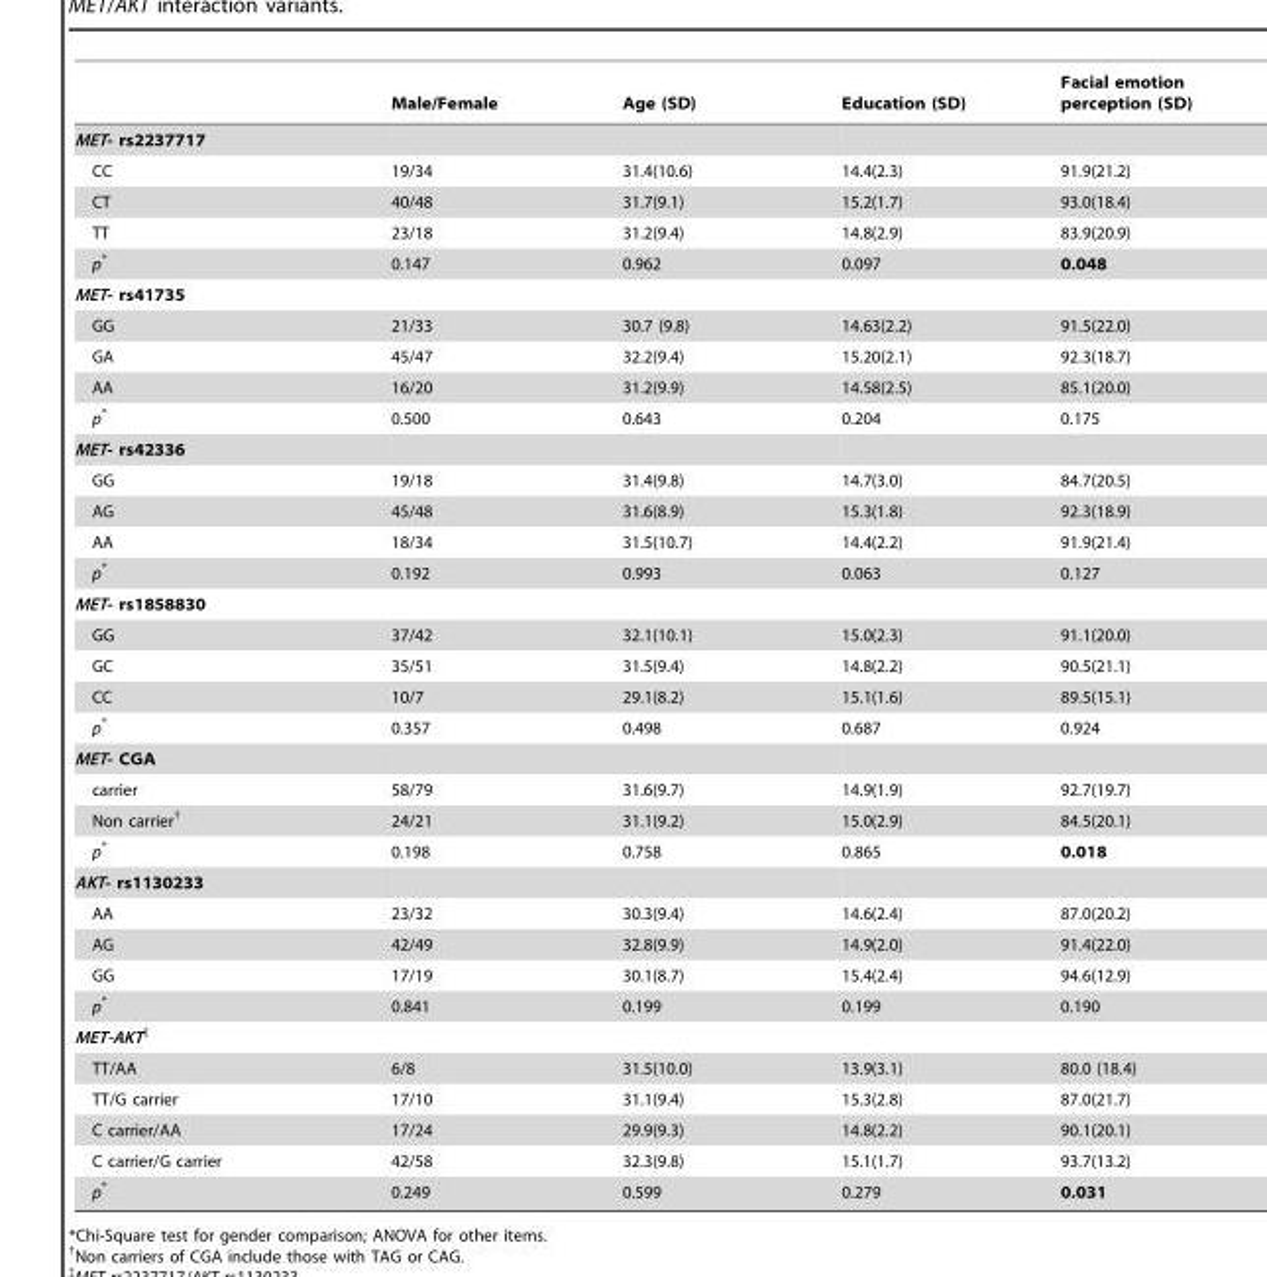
<table><thead><tr><td></td><td>Male/Female</td><td>Age (SD)</td><td>Education (SD)</td><td>Facial emotion perception (SD)</td></tr></thead><tbody><tr><td colspan="5">MET- rs2237717</td></tr><tr><td>CC</td><td>19/34</td><td>31.4(10.6)</td><td>14.4(2.3)</td><td>91.9(21.2)</td></tr><tr><td>CT</td><td>40/48</td><td>31.7(9.1)</td><td>15.2(1.7)</td><td>93.0(18.4)</td></tr><tr><td>TT</td><td>23/18</td><td>31.2(9.4)</td><td>14.8(2.9)</td><td>83.9(20.9)</td></tr><tr><td>p*</td><td>0.147</td><td>0.962</td><td>0.097</td><td>0.048</td></tr><tr><td colspan="5">MET- rs41735</td></tr><tr><td>GG</td><td>21/33</td><td>30.7 (9.8)</td><td>14.63(2.2)</td><td>91.5(22.0)</td></tr><tr><td>GA</td><td>45/47</td><td>32.2(9.4)</td><td>15.20(2.1)</td><td>92.3(18.7)</td></tr><tr><td>AA</td><td>16/20</td><td>31.2(9.9)</td><td>14.58(2.5)</td><td>85.1(20.0)</td></tr><tr><td>p*</td><td>0.500</td><td>0.643</td><td>0.204</td><td>0.175</td></tr><tr><td colspan="5">MET- rs42336</td></tr><tr><td>GG</td><td>19/18</td><td>31.4(9.8)</td><td>14.7(3.0)</td><td>84.7(20.5)</td></tr><tr><td>AG</td><td>45/48</td><td>31.6(8.9)</td><td>15.3(1.8)</td><td>92.3(18.9)</td></tr><tr><td>AA</td><td>18/34</td><td>31.5(10.7)</td><td>14.4(2.2)</td><td>91.9(21.4)</td></tr><tr><td>p*</td><td>0.192</td><td>0.993</td><td>0.063</td><td>0.127</td></tr><tr><td colspan="5">MET- rs1858830</td></tr><tr><td>GG</td><td>37/42</td><td>32.1(10.1)</td><td>15.0(2.3)</td><td>91.1(20.0)</td></tr><tr><td>GC</td><td>35/51</td><td>31.5(9.4)</td><td>14.8(2.2)</td><td>90.5(21.1)</td></tr><tr><td>CC</td><td>10/7</td><td>29.1(8.2)</td><td>15.1(1.6)</td><td>89.5(15.1)</td></tr><tr><td>p*</td><td>0.357</td><td>0.498</td><td>0.687</td><td>0.924</td></tr><tr><td colspan="5">MET- CGA</td></tr><tr><td>carrier</td><td>58/79</td><td>31.6(9.7)</td><td>14.9(1.9)</td><td>92.7(19.7)</td></tr><tr><td>Non carrier†</td><td>24/21</td><td>31.1(9.2)</td><td>15.0(2.9)</td><td>84.5(20.1)</td></tr><tr><td>p*</td><td>0.198</td><td>0.758</td><td>0.865</td><td>0.018</td></tr><tr><td colspan="5">AKT- rs1130233</td></tr><tr><td>AA</td><td>23/32</td><td>30.3(9.4)</td><td>14.6(2.4)</td><td>87.0(20.2)</td></tr><tr><td>AG</td><td>42/49</td><td>32.8(9.9)</td><td>14.9(2.0)</td><td>91.4(22.0)</td></tr><tr><td>GG</td><td>17/19</td><td>30.1(8.7)</td><td>15.4(2.4)</td><td>94.6(12.9)</td></tr><tr><td>p*</td><td>0.841</td><td>0.199</td><td>0.199</td><td>0.190</td></tr><tr><td colspan="5">MET-AKT‡</td></tr><tr><td>TT/AA</td><td>6/8</td><td>31.5(10.0)</td><td>13.9(3.1)</td><td>80.0 (18.4)</td></tr><tr><td>TT/G carrier</td><td>17/10</td><td>31.1(9.4)</td><td>15.3(2.8)</td><td>87.0(21.7)</td></tr><tr><td>C carrier/AA</td><td>17/24</td><td>29.9(9.3)</td><td>14.8(2.2)</td><td>90.1(20.1)</td></tr><tr><td>C carrier/G carrier</td><td>42/58</td><td>32.3(9.8)</td><td>15.1(1.7)</td><td>93.7(13.2)</td></tr><tr><td>p*</td><td>0.249</td><td>0.599</td><td>0.279</td><td>0.031</td></tr></tbody></table>